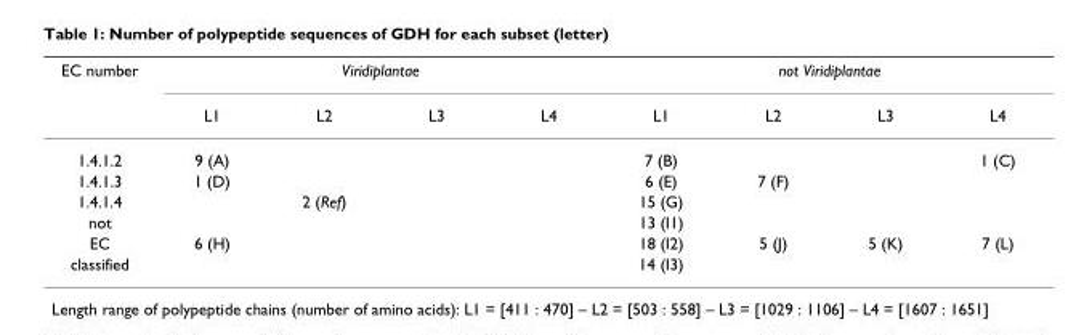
<table><thead><tr><td rowspan="2">EC number</td><td colspan="4">Viridiplantae</td><td colspan="4">not Viridiplantae</td></tr><tr><td>L1</td><td>L2</td><td>L3</td><td>L4</td><td>L1</td><td>L2</td><td>L3</td><td>L4</td></tr></thead><tbody><tr><td>1.4.1.2</td><td>9 (A)</td><td></td><td></td><td></td><td>7 (B)</td><td></td><td></td><td>1 (C)</td></tr><tr><td>1.4.1.3</td><td>1 (D)</td><td></td><td></td><td></td><td>6 (E)</td><td>7 (F)</td><td></td><td></td></tr><tr><td>1.4.1.4</td><td></td><td>2 (Ref)</td><td></td><td></td><td>15 (G)</td><td></td><td></td><td></td></tr><tr><td>not</td><td></td><td></td><td></td><td></td><td>13 (I1)</td><td></td><td></td><td></td></tr><tr><td>EC</td><td>6 (H)</td><td></td><td></td><td></td><td>18 (I2)</td><td>5 (J)</td><td>5 (K)</td><td>7 (L)</td></tr><tr><td>classified</td><td></td><td></td><td></td><td></td><td>14 (I3)</td><td></td><td></td><td></td></tr></tbody></table>